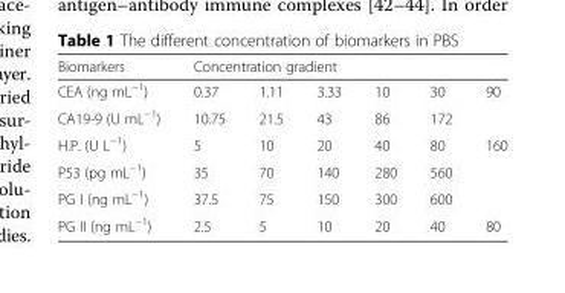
<table><thead><tr><td rowspan="2">Biomarkers CEA (ng mL<sup>−1</sup>)</td><td colspan="6">Concentration gradient</td></tr><tr><td>0.37</td><td>1.11</td><td>3.33</td><td>10</td><td>30</td><td>90</td></tr></thead><tbody><tr><td>CA19-9 (U mL<sup>−1</sup>)</td><td>10.75</td><td>21.5</td><td>43</td><td>86</td><td>172</td><td></td></tr><tr><td>H.P. (U L<sup>−1</sup>)</td><td>5</td><td>10</td><td>20</td><td>40</td><td>80</td><td>160</td></tr><tr><td>P53 (pg mL<sup>−1</sup>)</td><td>35</td><td>70</td><td>140</td><td>280</td><td>560</td><td></td></tr><tr><td>PG I (ng mL<sup>−1</sup>)</td><td>37.5</td><td>75</td><td>150</td><td>300</td><td>600</td><td></td></tr><tr><td>PG II (ng mL<sup>−1</sup>)</td><td>2.5</td><td>5</td><td>10</td><td>20</td><td>40</td><td>80</td></tr></tbody></table>